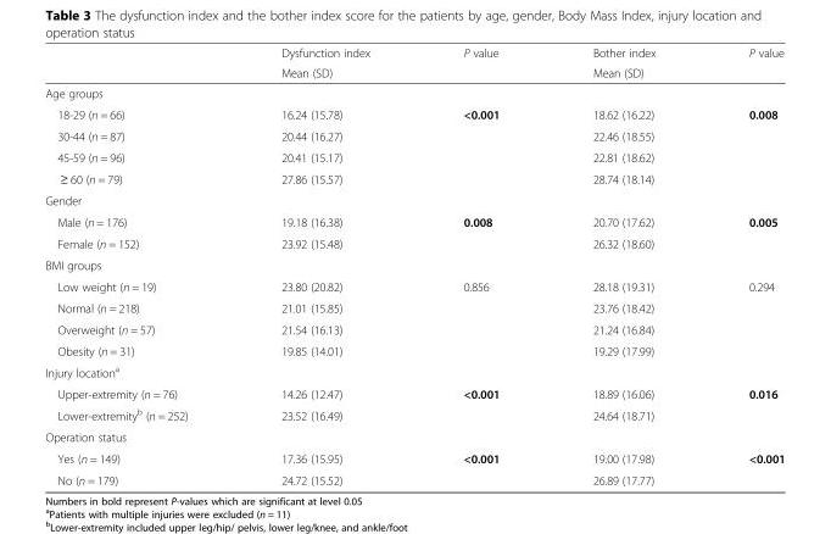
<table><thead><tr><td rowspan="2"></td><td rowspan="2">Dysfunction index Mean (SD)</td><td rowspan="2">P value</td><td rowspan="2">Bother index Mean (SD)</td><td rowspan="2">P value</td></tr><tr></tr></thead><tbody><tr><td colspan="5">Age groups</td></tr><tr><td>18-29 (n = 66)</td><td>16.24 (15.78)</td><td>&lt;0.001</td><td>18.62 (16.22)</td><td>0.008</td></tr><tr><td>30-44 (n = 87)</td><td>20.44 (16.27)</td><td></td><td>22.46 (18.55)</td><td></td></tr><tr><td>45-59 (n = 96)</td><td>20.41 (15.17)</td><td></td><td>22.81 (18.62)</td><td></td></tr><tr><td>≥ 60 (n = 79)</td><td>27.86 (15.57)</td><td></td><td>28.74 (18.14)</td><td></td></tr><tr><td colspan="5">Gender</td></tr><tr><td>Male (n = 176)</td><td>19.18 (16.38)</td><td>0.008</td><td>20.70 (17.62)</td><td>0.005</td></tr><tr><td>Female (n = 152)</td><td>23.92 (15.48)</td><td></td><td>26.32 (18.60)</td><td></td></tr><tr><td colspan="5">BMI groups</td></tr><tr><td>Low weight (n = 19)</td><td>23.80 (20.82)</td><td>0.856</td><td>28.18 (19.31)</td><td>0.294</td></tr><tr><td>Normal (n = 218)</td><td>21.01 (15.85)</td><td></td><td>23.76 (18.42)</td><td></td></tr><tr><td>Overweight (n = 57)</td><td>21.54 (16.13)</td><td></td><td>21.24 (16.84)</td><td></td></tr><tr><td>Obesity (n = 31)</td><td>19.85 (14.01)</td><td></td><td>19.29 (17.99)</td><td></td></tr><tr><td colspan="5">Injury location<sup>a</sup></td></tr><tr><td>Upper-extremity (n = 76)</td><td>14.26 (12.47)</td><td>&lt;0.001</td><td>18.89 (16.06)</td><td>0.016</td></tr><tr><td>Lower-extremity<sup>b</sup> (n = 252)</td><td>23.52 (16.49)</td><td></td><td>24.64 (18.71)</td><td></td></tr><tr><td colspan="5">Operation status</td></tr><tr><td>Yes (n = 149)</td><td>17.36 (15.95)</td><td>&lt;0.001</td><td>19.00 (17.98)</td><td>&lt;0.001</td></tr><tr><td>No (n = 179)</td><td>24.72 (15.52)</td><td></td><td>26.89 (17.77)</td><td></td></tr></tbody></table>